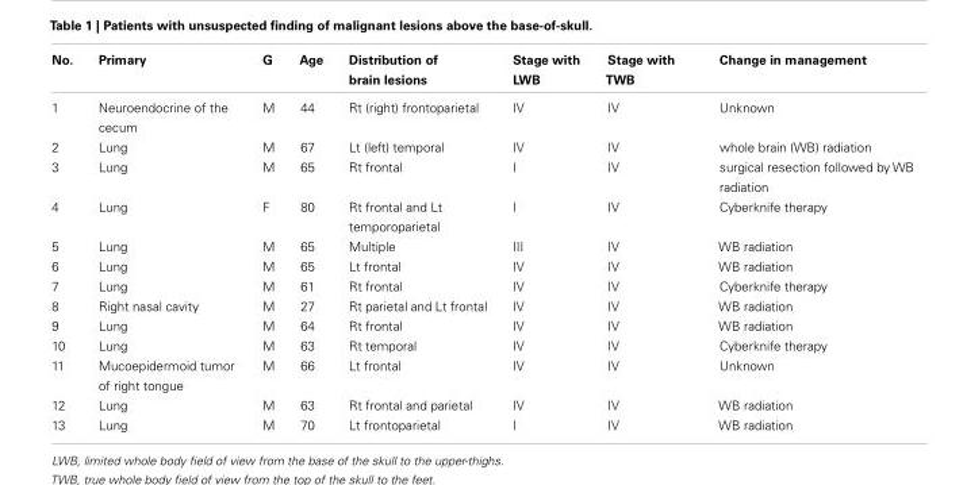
<table><thead><tr><td>No.</td><td>Primary</td><td>G</td><td>Age</td><td>Distribution of brain lesions</td><td>Stage with LWB</td><td>Stage with TWB</td><td>Change in management</td></tr></thead><tbody><tr><td>1</td><td>Neuroendocrine of the cecum</td><td>M</td><td>44</td><td>Rt (right) frontoparietal</td><td>IV</td><td>IV</td><td>Unknown</td></tr><tr><td>2</td><td>Lung</td><td>M</td><td>67</td><td>Lt (left) temporal</td><td>IV</td><td>IV</td><td>whole brain (WB) radiation</td></tr><tr><td>3</td><td>Lung</td><td>M</td><td>65</td><td>Rt frontal</td><td>I</td><td>IV</td><td>surgical resection followed by WB radiation</td></tr><tr><td>4</td><td>Lung</td><td>F</td><td>80</td><td>Rt frontal and Lt temporoparietal</td><td>I</td><td>IV</td><td>Cyberknife therapy</td></tr><tr><td>5</td><td>Lung</td><td>M</td><td>65</td><td>Multiple</td><td>III</td><td>IV</td><td>WB radiation</td></tr><tr><td>6</td><td>Lung</td><td>M</td><td>65</td><td>Lt frontal</td><td>IV</td><td>IV</td><td>WB radiation</td></tr><tr><td>7</td><td>Lung</td><td>M</td><td>61</td><td>Rt frontal</td><td>IV</td><td>IV</td><td>Cyberknife therapy</td></tr><tr><td>8</td><td>Right nasal cavity</td><td>M</td><td>27</td><td>Rt parietal and Lt frontal</td><td>IV</td><td>IV</td><td>WB radiation</td></tr><tr><td>9</td><td>Lung</td><td>M</td><td>64</td><td>Rt frontal</td><td>IV</td><td>IV</td><td>WB radiation</td></tr><tr><td>10</td><td>Lung</td><td>M</td><td>63</td><td>Rt temporal</td><td>IV</td><td>IV</td><td>Cyberknife therapy</td></tr><tr><td>11</td><td>Mucoepidermoid tumor of right tongue</td><td>M</td><td>66</td><td>Lt frontal</td><td>IV</td><td>IV</td><td>Unknown</td></tr><tr><td>12</td><td>Lung</td><td>M</td><td>63</td><td>Rt frontal and parietal</td><td>IV</td><td>IV</td><td>WB radiation</td></tr><tr><td>13</td><td>Lung</td><td>M</td><td>70</td><td>Lt frontoparietal</td><td>I</td><td>IV</td><td>WB radiation</td></tr></tbody></table>